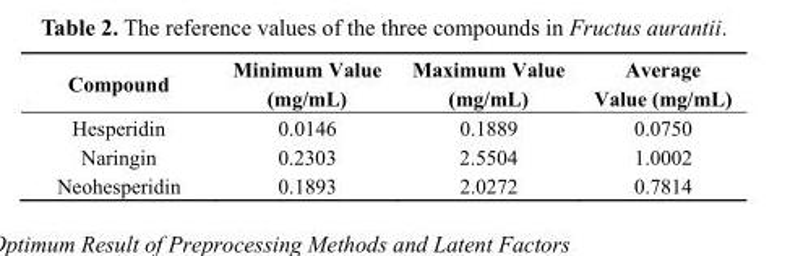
<table><thead><tr><td>Compound</td><td>Minimum Value (mg/mL)</td><td>Maximum Value (mg/mL)</td><td>Average Value (mg/mL)</td></tr></thead><tbody><tr><td>Hesperidin</td><td>0.0146</td><td>0.1889</td><td>0.0750</td></tr><tr><td>Naringin</td><td>0.2303</td><td>2.5504</td><td>1.0002</td></tr><tr><td>Neohesperidin</td><td>0.1893</td><td>2.0272</td><td>0.7814</td></tr></tbody></table>